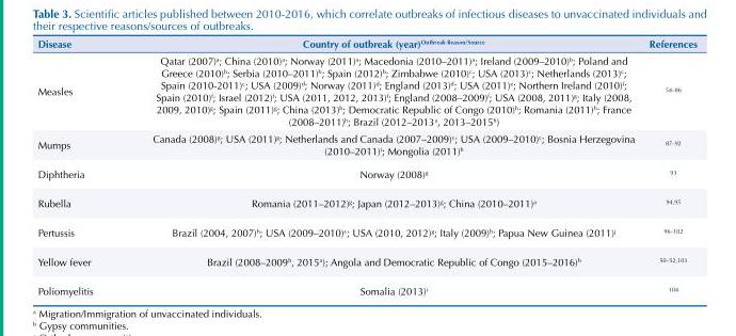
<table><thead><tr><td>Disease</td><td>Country of outbreak (year)<sup>Outbreak Reason/Source</sup></td><td>References</td></tr></thead><tbody><tr><td>Measles</td><td>Qatar (2007)<sup>a</sup>; China (2010)<sup>a</sup>; Norway (2011)<sup>a</sup>; Macedonia (2010–2011)<sup>a</sup>; Ireland (2009–2010)<sup>b</sup>; Poland and Greece (2010)<sup>b</sup>; Serbia (2010–2011)<sup>b</sup>; Spain (2012)<sup>b</sup>; Zimbabwe (2010)<sup>c</sup>; USA (2013)<sup>c</sup>; Netherlands (2013)<sup>c</sup>; Spain (2010-2011)<sup>c</sup>; USA (2009)<sup>d</sup>; Norway (2011)<sup>d</sup>; England (2013)<sup>d</sup>; USA (2011)<sup>e</sup>; Northern Ireland (2010)<sup>f</sup>; Spain (2010)<sup>f</sup>; Israel (2012)<sup>f</sup>; USA (2011, 2012, 2013)<sup>f</sup>; England (2008–2009)<sup>f</sup>; USA (2008, 2011)<sup>g</sup>; Italy (2008, 2009, 2010)<sup>g</sup>; Spain (2011)<sup>g</sup>; China (2013)<sup>h</sup>; Democratic Republic of Congo (2010)<sup>h</sup>; Romania (2011)<sup>h</sup>; France (2008–2011)<sup>h</sup>; Brazil (2012–2013<sup>a</sup>, 2013–2015<sup>h</sup>)</td><td>54–86</td></tr><tr><td>Mumps</td><td>Canada (2008)<sup>g</sup>; USA (2011)<sup>g</sup>; Netherlands and Canada (2007–2009)<sup>c</sup>; USA (2009–2010)<sup>c</sup>; Bosnia Herzegovina (2010–2011)<sup>i</sup>; Mongolia (2011)<sup>h</sup></td><td>87–92</td></tr><tr><td>Diphtheria</td><td>Norway (2008)<sup>g</sup></td><td>93</td></tr><tr><td>Rubella</td><td>Romania (2011–2012)<sup>g</sup>; Japan (2012–2013)<sup>g</sup>; China (2010–2011)<sup>a</sup></td><td>94,95</td></tr><tr><td>Pertussis</td><td>Brazil (2004, 2007)<sup>h</sup>; USA (2009–2010)<sup>c</sup>; USA (2010, 2012)<sup>g</sup>; Italy (2009)<sup>h</sup>; Papua New Guinea (2011)<sup>j</sup></td><td>96–102</td></tr><tr><td>Yellow fever</td><td>Brazil (2008–2009<sup>h</sup>, 2015<sup>a</sup>); Angola and Democratic Republic of Congo (2015–2016)<sup>h</sup></td><td>50–52,103</td></tr><tr><td>Poliomyelitis</td><td>Somalia (2013)<sup>i</sup></td><td>104</td></tr></tbody></table>